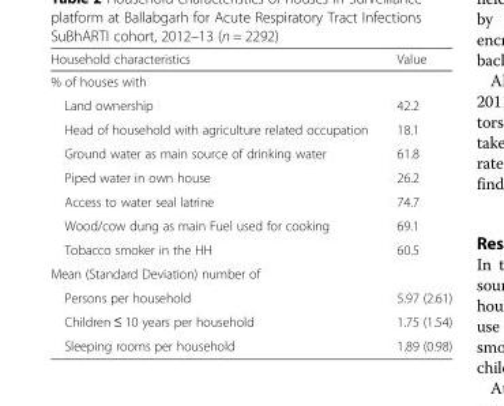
<table><thead><tr><td>Household characteristics</td><td>Value</td></tr></thead><tbody><tr><td colspan="2">% of houses with</td></tr><tr><td>Land ownership</td><td>42.2</td></tr><tr><td>Head of household with agriculture related occupation</td><td>18.1</td></tr><tr><td>Ground water as main source of drinking water</td><td>61.8</td></tr><tr><td>Piped water in own house</td><td>26.2</td></tr><tr><td>Access to water seal latrine</td><td>74.7</td></tr><tr><td>Wood/cow dung as main Fuel used for cooking</td><td>69.1</td></tr><tr><td>Tobacco smoker in the HH</td><td>60.5</td></tr><tr><td colspan="2">Mean (Standard Deviation) number of</td></tr><tr><td>Persons per household</td><td>5.97 (2.61)</td></tr><tr><td>Children ≤ 10 years per household</td><td>1.75 (1.54)</td></tr><tr><td>Sleeping rooms per household</td><td>1.89 (0.98)</td></tr></tbody></table>